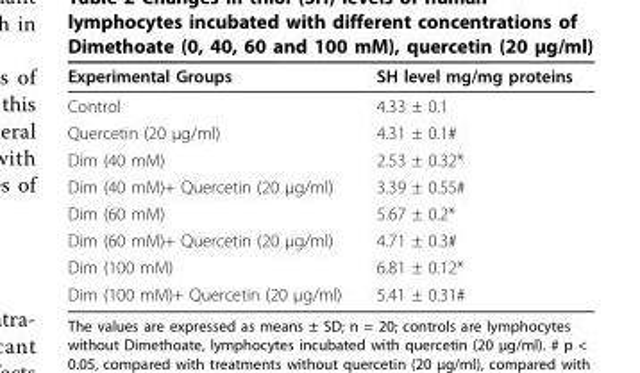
<table><thead><tr><td>Experimental Groups</td><td>SH level mg/mg proteins</td></tr></thead><tbody><tr><td>Control</td><td>4.33 ± 0.1</td></tr><tr><td>Quercetin (20 μg/ml)</td><td>4.31 ± 0.1#</td></tr><tr><td>Dim (40 mM)</td><td>2.53 ± 0.32*</td></tr><tr><td>Dim (40 mM)+ Quercetin (20 μg/ml)</td><td>3.39 ± 0.55#</td></tr><tr><td>Dim (60 mM)</td><td>5.67 ± 0.2*</td></tr><tr><td>Dim (60 mM)+ Quercetin (20 μg/ml)</td><td>4.71 ± 0.3#</td></tr><tr><td>Dim (100 mM)</td><td>6.81 ± 0.12*</td></tr><tr><td>Dim (100 mM)+ Quercetin (20 μg/ml)</td><td>5.41 ± 0.31#</td></tr></tbody></table>